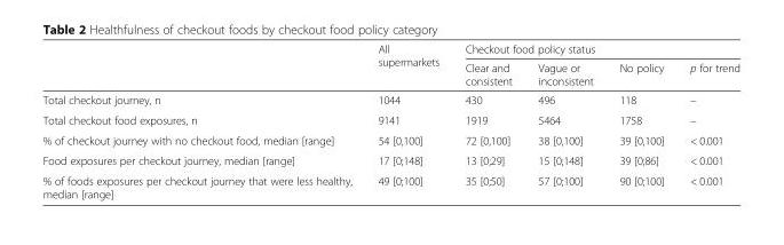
<table><thead><tr><td rowspan="2"></td><td rowspan="2">All supermarkets</td><td colspan="4">Checkout food policy status</td></tr><tr><td>Clear and consistent</td><td>Vague or inconsistent</td><td>No policy</td><td>p for trend</td></tr></thead><tbody><tr><td>Total checkout journey, n</td><td>1044</td><td>430</td><td>496</td><td>118</td><td>–</td></tr><tr><td>Total checkout food exposures, n</td><td>9141</td><td>1919</td><td>5464</td><td>1758</td><td>–</td></tr><tr><td>% of checkout journey with no checkout food, median [range]</td><td>54 [0,100]</td><td>72 [0,100]</td><td>38 [0,100]</td><td>39 [0,100]</td><td>&lt; 0.001</td></tr><tr><td>Food exposures per checkout journey, median [range]</td><td>17 [0;148]</td><td>13 [0;29]</td><td>15 [0;148]</td><td>39 [0;86]</td><td>&lt; 0.001</td></tr><tr><td>% of foods exposures per checkout journey that were less healthy, median [range]</td><td>49 [0;100]</td><td>35 [0;50]</td><td>57 [0;100]</td><td>90 [0;100]</td><td>&lt; 0.001</td></tr></tbody></table>